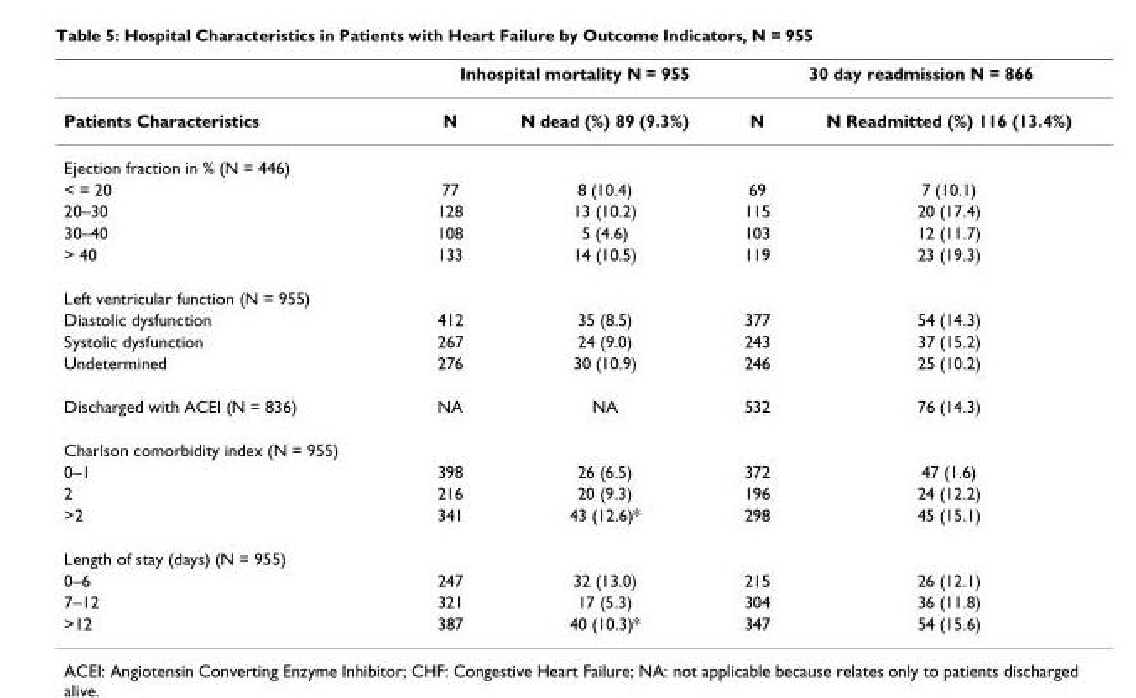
<table><thead><tr><td rowspan="2">Patients Characteristics</td><td colspan="2">Inhospital mortality N = 955</td><td colspan="2">30 day readmission N = 866</td></tr><tr><td>N</td><td>N dead (%) 89 (9.3%)</td><td>N</td><td>N Readmitted (%) 116 (13.4%)</td></tr></thead><tbody><tr><td colspan="5">Ejection fraction in % (N = 446)</td></tr><tr><td>&lt; = 20</td><td>77</td><td>8 (10.4)</td><td>69</td><td>7 (10.1)</td></tr><tr><td>20–30</td><td>128</td><td>13 (10.2)</td><td>115</td><td>20 (17.4)</td></tr><tr><td>30–40</td><td>108</td><td>5 (4.6)</td><td>103</td><td>12 (11.7)</td></tr><tr><td>&gt; 40</td><td>133</td><td>14 (10.5)</td><td>119</td><td>23 (19.3)</td></tr><tr><td colspan="5">Left ventricular function (N = 955)</td></tr><tr><td>Diastolic dysfunction</td><td>412</td><td>35 (8.5)</td><td>377</td><td>54 (14.3)</td></tr><tr><td>Systolic dysfunction</td><td>267</td><td>24 (9.0)</td><td>243</td><td>37 (15.2)</td></tr><tr><td>Undetermined</td><td>276</td><td>30 (10.9)</td><td>246</td><td>25 (10.2)</td></tr><tr><td>Discharged with ACEI (N = 836)</td><td>NA</td><td>NA</td><td>532</td><td>76 (14.3)</td></tr><tr><td colspan="5">Charlson comorbidity index (N = 955)</td></tr><tr><td>0–1</td><td>398</td><td>26 (6.5)</td><td>372</td><td>47 (1.6)</td></tr><tr><td>2</td><td>216</td><td>20 (9.3)</td><td>196</td><td>24 (12.2)</td></tr><tr><td>&gt;2</td><td>341</td><td>43 (12.6)*</td><td>298</td><td>45 (15.1)</td></tr><tr><td colspan="5">Length of stay (days) (N = 955)</td></tr><tr><td>0–6</td><td>247</td><td>32 (13.0)</td><td>215</td><td>26 (12.1)</td></tr><tr><td>7–12</td><td>321</td><td>17 (5.3)</td><td>304</td><td>36 (11.8)</td></tr><tr><td>&gt;12</td><td>387</td><td>40 (10.3)*</td><td>347</td><td>54 (15.6)</td></tr></tbody></table>